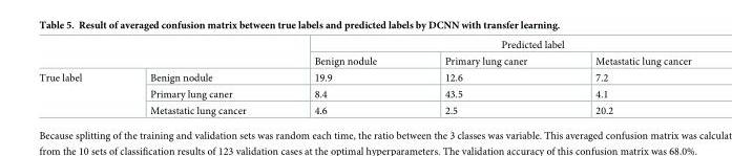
<table><thead><tr><td rowspan="2"></td><td rowspan="2"></td><td colspan="3">Predicted label</td></tr><tr><td>Benign nodule</td><td>Primary lung caner</td><td>Metastatic lung cancer</td></tr></thead><tbody><tr><td rowspan="3">True label</td><td>Benign nodule</td><td>19.9</td><td>12.6</td><td>7.2</td></tr><tr><td>Primary lung caner</td><td>8.4</td><td>43.5</td><td>4.1</td></tr><tr><td>Metastatic lung cancer</td><td>4.6</td><td>2.5</td><td>20.2</td></tr></tbody></table>